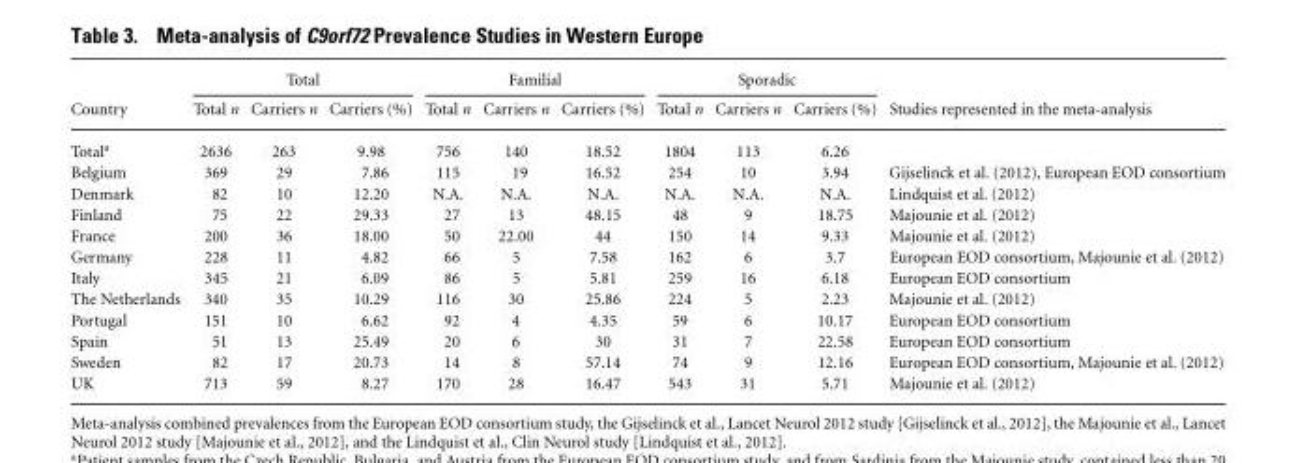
<table><thead><tr><td rowspan="2">Country</td><td colspan="3">Total</td><td colspan="3">Familial</td><td colspan="3">Sporadic</td><td rowspan="2">Studies represented in the meta-analysis</td></tr><tr><td>Total n</td><td>Carriers n</td><td>Carriers (%)</td><td>Total n</td><td>Carriers n</td><td>Carriers (%)</td><td>Total n</td><td>Carriers n</td><td>Carriers (%)</td></tr></thead><tbody><tr><td>Total<sup>a</sup></td><td>2636</td><td>263</td><td>9.98</td><td>756</td><td>140</td><td>18.52</td><td>1804</td><td>113</td><td>6.26</td><td></td></tr><tr><td>Belgium</td><td>369</td><td>29</td><td>7.86</td><td>115</td><td>19</td><td>16.52</td><td>254</td><td>10</td><td>3.94</td><td>Gijselinck et al. (2012), European EOD consortium</td></tr><tr><td>Denmark</td><td>82</td><td>10</td><td>12.20</td><td>N.A.</td><td>N.A.</td><td>N.A.</td><td>N.A.</td><td>N.A.</td><td>N.A.</td><td>Lindquist et al. (2012)</td></tr><tr><td>Finland</td><td>75</td><td>22</td><td>29.33</td><td>27</td><td>13</td><td>48.15</td><td>48</td><td>9</td><td>18.75</td><td>Majounie et al. (2012)</td></tr><tr><td>France</td><td>200</td><td>36</td><td>18.00</td><td>50</td><td>22.00</td><td>44</td><td>150</td><td>14</td><td>9.33</td><td>Majounie et al. (2012)</td></tr><tr><td>Germany</td><td>228</td><td>11</td><td>4.82</td><td>66</td><td>5</td><td>7.58</td><td>162</td><td>6</td><td>3.7</td><td>European EOD consortium, Majounie et al. (2012)</td></tr><tr><td>Italy</td><td>345</td><td>21</td><td>6.09</td><td>86</td><td>5</td><td>5.81</td><td>259</td><td>16</td><td>6.18</td><td>European EOD consortium</td></tr><tr><td>The Netherlands</td><td>340</td><td>35</td><td>10.29</td><td>116</td><td>30</td><td>25.86</td><td>224</td><td>5</td><td>2.23</td><td>Majounie et al. (2012)</td></tr><tr><td>Portugal</td><td>151</td><td>10</td><td>6.62</td><td>92</td><td>4</td><td>4.35</td><td>59</td><td>6</td><td>10.17</td><td>European EOD consortium</td></tr><tr><td>Spain</td><td>51</td><td>13</td><td>25.49</td><td>20</td><td>6</td><td>30</td><td>31</td><td>7</td><td>22.58</td><td>European EOD consortium</td></tr><tr><td>Sweden</td><td>82</td><td>17</td><td>20.73</td><td>14</td><td>8</td><td>57.14</td><td>74</td><td>9</td><td>12.16</td><td>European EOD consortium, Majounie et al. (2012)</td></tr><tr><td>UK</td><td>713</td><td>59</td><td>8.27</td><td>170</td><td>28</td><td>16.47</td><td>543</td><td>31</td><td>5.71</td><td>Majounie et al. (2012)</td></tr></tbody></table>